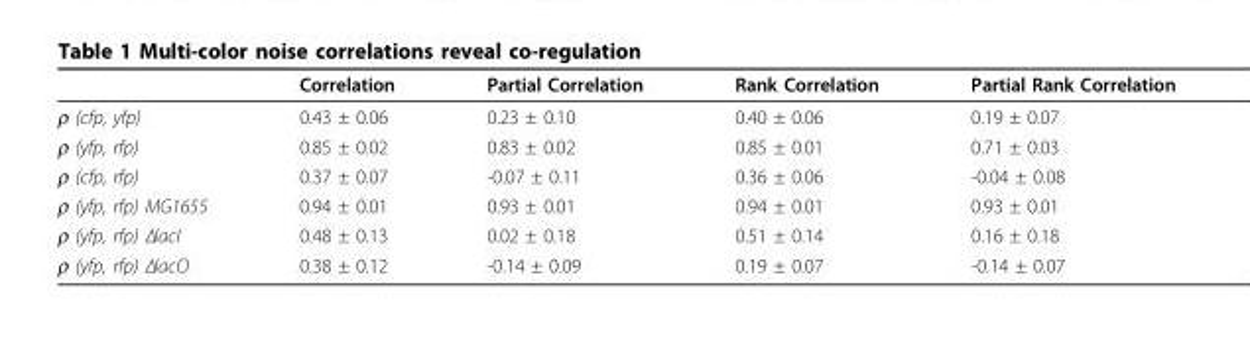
<table><thead><tr><td></td><td>Correlation</td><td>Partial Correlation</td><td>Rank Correlation</td><td>Partial Rank Correlation</td></tr></thead><tbody><tr><td>(cfp, yfp)</td><td>0.43 ± 0.06</td><td>0.23 ± 0.10</td><td>0.40 ± 0.06</td><td>0.19 ± 0.07</td></tr><tr><td>(yfp, rfp)</td><td>0.85 ± 0.02</td><td>0.83 ± 0.02</td><td>0.85 ± 0.01</td><td>0.71 ± 0.03</td></tr><tr><td>(cfp, rfp)</td><td>0.37 ± 0.07</td><td>-0.07 ± 0.11</td><td>0.36 ± 0.06</td><td>-0.04 ± 0.08</td></tr><tr><td>(yfp, rfp) MG1655</td><td>0.94 ± 0.01</td><td>0.93 ± 0.01</td><td>0.94 ± 0.01</td><td>0.93 ± 0.01</td></tr><tr><td>(yfp, rfp) ΔlacI</td><td>0.48 ± 0.13</td><td>0.02 ± 0.18</td><td>0.51 ± 0.14</td><td>0.16 ± 0.18</td></tr><tr><td>(yfp, rfp) ΔlacO</td><td>0.38 ± 0.12</td><td>-0.14 ± 0.09</td><td>0.19 ± 0.07</td><td>-0.14 ± 0.07</td></tr></tbody></table>